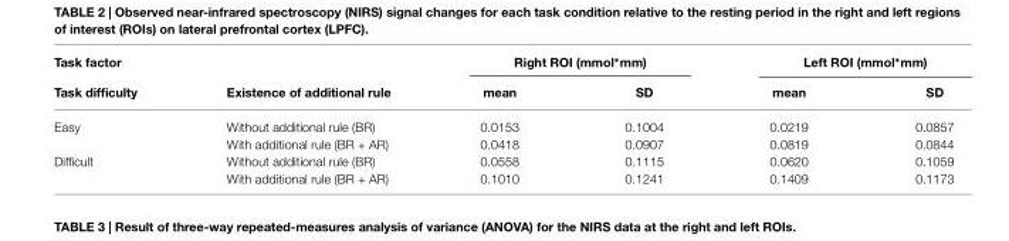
<table><thead><tr><td rowspan="2">Task factor Task difficulty</td><td rowspan="2">Existence of additional rule</td><td colspan="2">Right ROI (mmol∗mm)</td><td colspan="2">Left ROI (mmol∗mm)</td></tr><tr><td>mean</td><td>SD</td><td>mean</td><td>SD</td></tr></thead><tbody><tr><td rowspan="2">Easy</td><td>Without additional rule (BR)</td><td>0.0153</td><td>0.1004</td><td>0.0219</td><td>0.0857</td></tr><tr><td>With additional rule (BR + AR)</td><td>0.0418</td><td>0.0907</td><td>0.0819</td><td>0.0844</td></tr><tr><td rowspan="2">Difficult</td><td>Without additional rule (BR)</td><td>0.0558</td><td>0.1115</td><td>0.0620</td><td>0.1059</td></tr><tr><td>With additional rule (BR + AR)</td><td>0.1010</td><td>0.1241</td><td>0.1409</td><td>0.1173</td></tr></tbody></table>